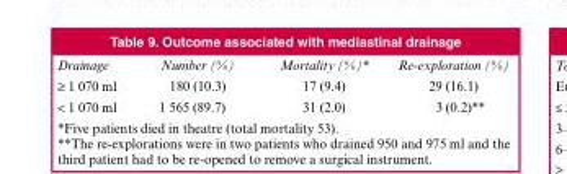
<table><thead><tr><td>Drainage</td><td>Number (%)</td><td>Mortality (%)*</td><td>Re-exploration (%)</td></tr></thead><tbody><tr><td>≥ 1 070 ml</td><td>180 (10.3)</td><td>17 (9.4)</td><td>29 (16.1)</td></tr><tr><td>&lt; 1 070 ml</td><td>1 565 (89.7)</td><td>31 (2.0)</td><td>3 (0.2)**</td></tr></tbody></table>